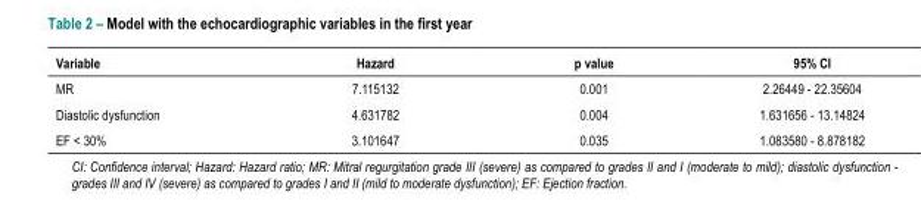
<table><thead><tr><td>Variable</td><td>Hazard</td><td>p value</td><td>95% CI</td></tr></thead><tbody><tr><td>MR</td><td>7.115132</td><td>0.001</td><td>2.26449 - 22.35604</td></tr><tr><td>Diastolic dysfunction</td><td>4.631782</td><td>0.004</td><td>1.631656 - 13.14824</td></tr><tr><td>EF &lt; 30%</td><td>3.101647</td><td>0.035</td><td>1.083580 - 8.878182</td></tr></tbody></table>